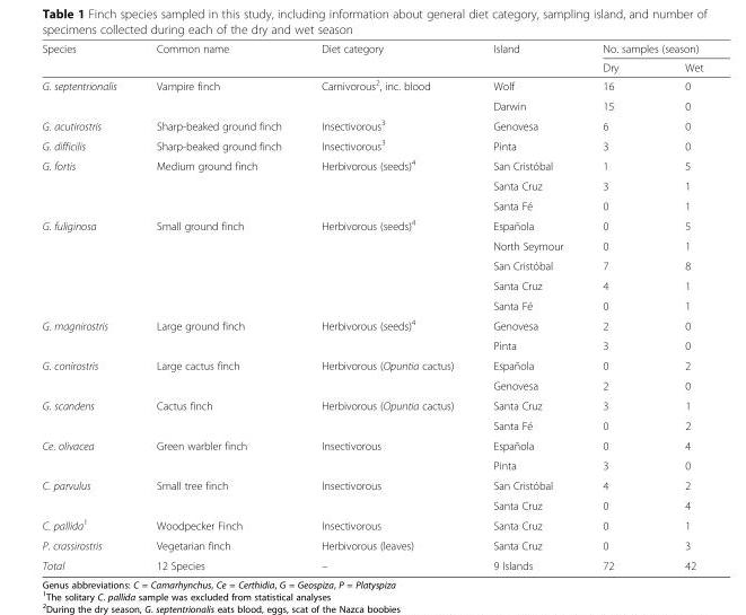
<table><thead><tr><td rowspan="2">Species</td><td rowspan="2">Common name</td><td rowspan="2">Diet category</td><td rowspan="2">Island</td><td colspan="2">No. samples (season)</td></tr><tr><td>Dry</td><td>Wet</td></tr></thead><tbody><tr><td rowspan="2">G. septentrionalis</td><td rowspan="2">Vampire finch</td><td rowspan="2">Carnivorous<sup>2</sup>, inc. blood</td><td>Wolf</td><td>16</td><td>0</td></tr><tr><td>Darwin</td><td>15</td><td>0</td></tr><tr><td>G. acutirostris</td><td>Sharp-beaked ground finch</td><td>Insectivorous<sup>3</sup></td><td>Genovesa</td><td>6</td><td>0</td></tr><tr><td>G. difficilis</td><td>Sharp-beaked ground finch</td><td>Insectivorous<sup>3</sup></td><td>Pinta</td><td>3</td><td>0</td></tr><tr><td rowspan="3">G. fortis</td><td rowspan="3">Medium ground finch</td><td rowspan="3">Herbivorous (seeds)<sup>4</sup></td><td>San Cristóbal</td><td>1</td><td>5</td></tr><tr><td>Santa Cruz</td><td>3</td><td>1</td></tr><tr><td>Santa Fé</td><td>0</td><td>1</td></tr><tr><td rowspan="5">G. fuliginosa</td><td rowspan="5">Small ground finch</td><td rowspan="5">Herbivorous (seeds)<sup>4</sup></td><td>Española</td><td>0</td><td>5</td></tr><tr><td>North Seymour</td><td>0</td><td>1</td></tr><tr><td>San Cristóbal</td><td>7</td><td>8</td></tr><tr><td>Santa Cruz</td><td>4</td><td>1</td></tr><tr><td>Santa Fé</td><td>0</td><td>1</td></tr><tr><td rowspan="2">G. magnirostris</td><td rowspan="2">Large ground finch</td><td rowspan="2">Herbivorous (seeds)<sup>4</sup></td><td>Genovesa</td><td>2</td><td>0</td></tr><tr><td>Pinta</td><td>3</td><td>0</td></tr><tr><td rowspan="2">G. conirostris</td><td rowspan="2">Large cactus finch</td><td rowspan="2">Herbivorous (Opuntia cactus)</td><td>Española</td><td>0</td><td>2</td></tr><tr><td>Genovesa</td><td>2</td><td>0</td></tr><tr><td rowspan="2">G. scandens</td><td rowspan="2">Cactus finch</td><td rowspan="2">Herbivorous (Opuntia cactus)</td><td>Santa Cruz</td><td>3</td><td>1</td></tr><tr><td>Santa Fé</td><td>0</td><td>2</td></tr><tr><td rowspan="2">Ce. olivacea</td><td rowspan="2">Green warbler finch</td><td rowspan="2">Insectivorous</td><td>Española</td><td>0</td><td>4</td></tr><tr><td>Pinta</td><td>3</td><td>0</td></tr><tr><td rowspan="2">C. parvulus</td><td rowspan="2">Small tree finch</td><td rowspan="2">Insectivorous</td><td>San Cristóbal</td><td>4</td><td>2</td></tr><tr><td>Santa Cruz</td><td>0</td><td>4</td></tr><tr><td>C. pallida<sup>1</sup></td><td>Woodpecker Finch</td><td>Insectivorous</td><td>Santa Cruz</td><td>0</td><td>1</td></tr><tr><td>P. crassirostris</td><td>Vegetarian finch</td><td>Herbivorous (leaves)</td><td>Santa Cruz</td><td>0</td><td>3</td></tr><tr><td>Total</td><td>12 Species</td><td>–</td><td>9 Islands</td><td>72</td><td>42</td></tr></tbody></table>